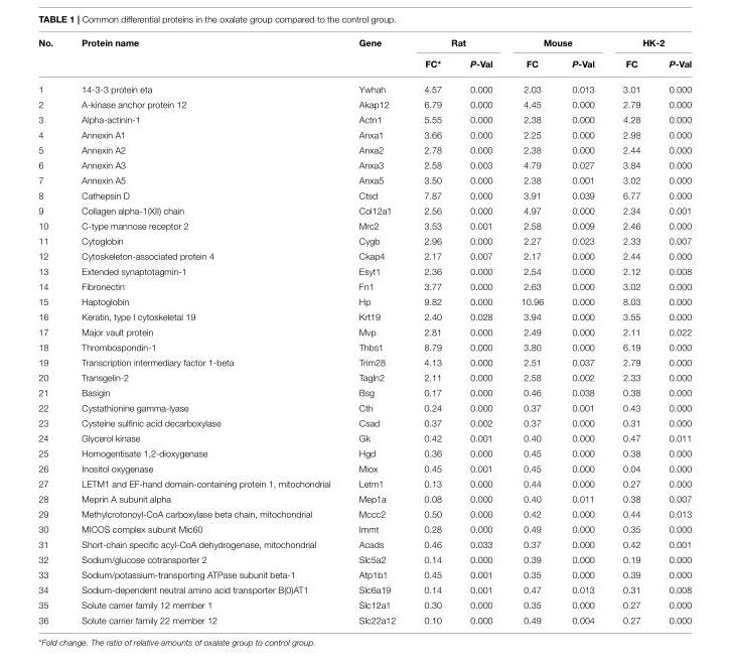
<table><thead><tr><td rowspan="2">No.</td><td rowspan="2">Protein name</td><td rowspan="2">Gene</td><td colspan="2">Rat</td><td colspan="2">Mouse</td><td colspan="2">HK-2</td></tr><tr><td>FC*</td><td>P-Val</td><td>FC</td><td>P-Val</td><td>FC</td><td>P-Val</td></tr></thead><tbody><tr><td>1</td><td>14-3-3 protein eta</td><td>Ywhah</td><td>4.57</td><td>0.000</td><td>2.03</td><td>0.013</td><td>3.01</td><td>0.000</td></tr><tr><td>2</td><td>A-kinase anchor protein 12</td><td>Akap12</td><td>6.79</td><td>0.000</td><td>4.45</td><td>0.000</td><td>2.79</td><td>0.000</td></tr><tr><td>3</td><td>Alpha-actinin-1</td><td>Actn1</td><td>5.55</td><td>0.000</td><td>2.38</td><td>0.000</td><td>4.28</td><td>0.000</td></tr><tr><td>4</td><td>Annexin A1</td><td>Anxa1</td><td>3.66</td><td>0.000</td><td>2.25</td><td>0.000</td><td>2.98</td><td>0.000</td></tr><tr><td>5</td><td>Annexin A2</td><td>Anxa2</td><td>2.78</td><td>0.000</td><td>2.38</td><td>0.000</td><td>2.44</td><td>0.000</td></tr><tr><td>6</td><td>Annexin A3</td><td>Anxa3</td><td>2.58</td><td>0.003</td><td>4.79</td><td>0.027</td><td>3.84</td><td>0.000</td></tr><tr><td>7</td><td>Annexin A5</td><td>Anxa5</td><td>3.50</td><td>0.000</td><td>2.38</td><td>0.001</td><td>3.02</td><td>0.000</td></tr><tr><td>8</td><td>Cathepsin D</td><td>Ctsd</td><td>7.87</td><td>0.000</td><td>3.91</td><td>0.039</td><td>6.77</td><td>0.000</td></tr><tr><td>9</td><td>Collagen alpha-1(XII) chain</td><td>Col12a1</td><td>2.56</td><td>0.000</td><td>4.97</td><td>0.000</td><td>2.34</td><td>0.001</td></tr><tr><td>10</td><td>C-type mannose receptor 2</td><td>Mrc2</td><td>3.53</td><td>0.001</td><td>2.58</td><td>0.009</td><td>2.46</td><td>0.000</td></tr><tr><td>11</td><td>Cytoglobin</td><td>Cygb</td><td>2.96</td><td>0.000</td><td>2.27</td><td>0.023</td><td>2.33</td><td>0.007</td></tr><tr><td>12</td><td>Cytoskeleton-associated protein 4</td><td>Ckap4</td><td>2.17</td><td>0.007</td><td>2.17</td><td>0.000</td><td>2.44</td><td>0.000</td></tr><tr><td>13</td><td>Extended synaptotagmin-1</td><td>Esyt1</td><td>2.36</td><td>0.000</td><td>2.54</td><td>0.000</td><td>2.12</td><td>0.008</td></tr><tr><td>14</td><td>Fibronectin</td><td>Fn1</td><td>3.77</td><td>0.000</td><td>2.63</td><td>0.000</td><td>3.02</td><td>0.000</td></tr><tr><td>15</td><td>Haptoglobin</td><td>Hp</td><td>9.82</td><td>0.000</td><td>10.96</td><td>0.000</td><td>8.03</td><td>0.000</td></tr><tr><td>16</td><td>Keratin, type I cytoskeletal 19</td><td>Krt19</td><td>2.40</td><td>0.028</td><td>3.94</td><td>0.000</td><td>3.55</td><td>0.000</td></tr><tr><td>17</td><td>Major vault protein</td><td>Mvp</td><td>2.81</td><td>0.000</td><td>2.49</td><td>0.000</td><td>2.11</td><td>0.022</td></tr><tr><td>18</td><td>Thrombospondin-1</td><td>Thbs1</td><td>8.79</td><td>0.000</td><td>3.80</td><td>0.000</td><td>6.19</td><td>0.000</td></tr><tr><td>19</td><td>Transcription intermediary factor 1-beta</td><td>Trim28</td><td>4.13</td><td>0.000</td><td>2.51</td><td>0.037</td><td>2.79</td><td>0.000</td></tr><tr><td>20</td><td>Transgelin-2</td><td>Tagln2</td><td>2.11</td><td>0.000</td><td>2.58</td><td>0.002</td><td>2.33</td><td>0.000</td></tr><tr><td>21</td><td>Basigin</td><td>Bsg</td><td>0.17</td><td>0.000</td><td>0.46</td><td>0.038</td><td>0.38</td><td>0.000</td></tr><tr><td>22</td><td>Cystathionine gamma-lyase</td><td>Cth</td><td>0.24</td><td>0.000</td><td>0.37</td><td>0.001</td><td>0.43</td><td>0.000</td></tr><tr><td>23</td><td>Cysteine sulfinic acid decarboxylase</td><td>Csad</td><td>0.37</td><td>0.002</td><td>0.37</td><td>0.000</td><td>0.31</td><td>0.000</td></tr><tr><td>24</td><td>Glycerol kinase</td><td>Gk</td><td>0.42</td><td>0.001</td><td>0.40</td><td>0.000</td><td>0.47</td><td>0.011</td></tr><tr><td>25</td><td>Homogentisate 1,2-dioxygenase</td><td>Hgd</td><td>0.36</td><td>0.000</td><td>0.45</td><td>0.000</td><td>0.38</td><td>0.000</td></tr><tr><td>26</td><td>Inositol oxygenase</td><td>Miox</td><td>0.45</td><td>0.001</td><td>0.45</td><td>0.000</td><td>0.04</td><td>0.000</td></tr><tr><td>27</td><td>LETM1 and EF-hand domain-containing protein 1, mitochondrial</td><td>Letm1</td><td>0.13</td><td>0.000</td><td>0.44</td><td>0.000</td><td>0.27</td><td>0.000</td></tr><tr><td>28</td><td>Meprin A subunit alpha</td><td>Mep1a</td><td>0.08</td><td>0.000</td><td>0.40</td><td>0.011</td><td>0.38</td><td>0.007</td></tr><tr><td>29</td><td>Methylcrotonoyl-CoA carboxylase beta chain, mitochondrial</td><td>Mccc2</td><td>0.50</td><td>0.000</td><td>0.42</td><td>0.000</td><td>0.44</td><td>0.013</td></tr><tr><td>30</td><td>MICOS complex subunit Mic60</td><td>Immt</td><td>0.28</td><td>0.000</td><td>0.49</td><td>0.000</td><td>0.35</td><td>0.000</td></tr><tr><td>31</td><td>Short-chain specific acyl-CoA dehydrogenase, mitochondrial</td><td>Acads</td><td>0.46</td><td>0.033</td><td>0.37</td><td>0.000</td><td>0.42</td><td>0.001</td></tr><tr><td>32</td><td>Sodium/glucose cotransporter 2</td><td>Slc5a2</td><td>0.14</td><td>0.000</td><td>0.39</td><td>0.000</td><td>0.19</td><td>0.000</td></tr><tr><td>33</td><td>Sodium/potassium-transporting ATPase subunit beta-1</td><td>Atp1b1</td><td>0.45</td><td>0.001</td><td>0.35</td><td>0.000</td><td>0.39</td><td>0.000</td></tr><tr><td>34</td><td>Sodium-dependent neutral amino acid transporter B(0)AT1</td><td>Slc6a19</td><td>0.14</td><td>0.001</td><td>0.47</td><td>0.013</td><td>0.31</td><td>0.008</td></tr><tr><td>35</td><td>Solute carrier family 12 member 1</td><td>Slc12a1</td><td>0.30</td><td>0.000</td><td>0.35</td><td>0.000</td><td>0.27</td><td>0.000</td></tr><tr><td>36</td><td>Solute carrier family 22 member 12</td><td>Slc22a12</td><td>0.10</td><td>0.000</td><td>0.49</td><td>0.004</td><td>0.27</td><td>0.000</td></tr></tbody></table>